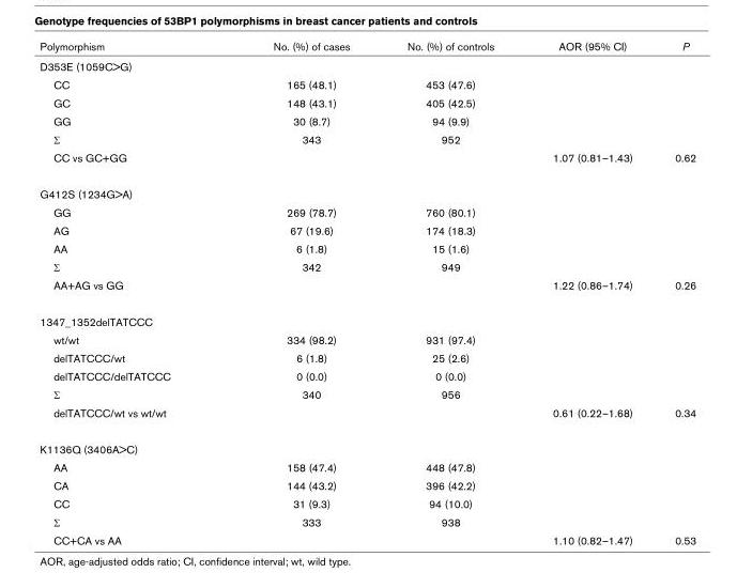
<table><thead><tr><td>Polymorphism</td><td>No. (%) of cases</td><td>No. (%) of controls</td><td>AOR (95% CI)</td><td>P</td></tr></thead><tbody><tr><td colspan="5">D353E (1059C&gt;G)</td></tr><tr><td>CC</td><td>165 (48.1)</td><td>453 (47.6)</td><td></td><td></td></tr><tr><td>GC</td><td>148 (43.1)</td><td>405 (42.5)</td><td></td><td></td></tr><tr><td>GG</td><td>30 (8.7)</td><td>94 (9.9)</td><td></td><td></td></tr><tr><td>Σ</td><td>343</td><td>952</td><td></td><td></td></tr><tr><td>CC vs GC+GG</td><td></td><td></td><td>1.07 (0.81–1.43)</td><td>0.62</td></tr><tr><td colspan="5">G412S (1234G&gt;A)</td></tr><tr><td>GG</td><td>269 (78.7)</td><td>760 (80.1)</td><td></td><td></td></tr><tr><td>AG</td><td>67 (19.6)</td><td>174 (18.3)</td><td></td><td></td></tr><tr><td>AA</td><td>6 (1.8)</td><td>15 (1.6)</td><td></td><td></td></tr><tr><td>Σ</td><td>342</td><td>949</td><td></td><td></td></tr><tr><td>AA+AG vs GG</td><td></td><td></td><td>1.22 (0.86–1.74)</td><td>0.26</td></tr><tr><td colspan="5">1347_1352delTATCCC</td></tr><tr><td>wt/wt</td><td>334 (98.2)</td><td>931 (97.4)</td><td></td><td></td></tr><tr><td>delTATCCC/wt</td><td>6 (1.8)</td><td>25 (2.6)</td><td></td><td></td></tr><tr><td>delTATCCC/delTATCCC</td><td>0 (0.0)</td><td>0 (0.0)</td><td></td><td></td></tr><tr><td>Σ</td><td>340</td><td>956</td><td></td><td></td></tr><tr><td>delTATCCC/wt vs wt/wt</td><td></td><td></td><td>0.61 (0.22–1.68)</td><td>0.34</td></tr><tr><td colspan="5">K1136Q (3406A&gt;C)</td></tr><tr><td>AA</td><td>158 (47.4)</td><td>448 (47.8)</td><td></td><td></td></tr><tr><td>CA</td><td>144 (43.2)</td><td>396 (42.2)</td><td></td><td></td></tr><tr><td>CC</td><td>31 (9.3)</td><td>94 (10.0)</td><td></td><td></td></tr><tr><td>Σ</td><td>333</td><td>938</td><td></td><td></td></tr><tr><td>CC+CA vs AA</td><td></td><td></td><td>1.10 (0.82–1.47)</td><td>0.53</td></tr></tbody></table>